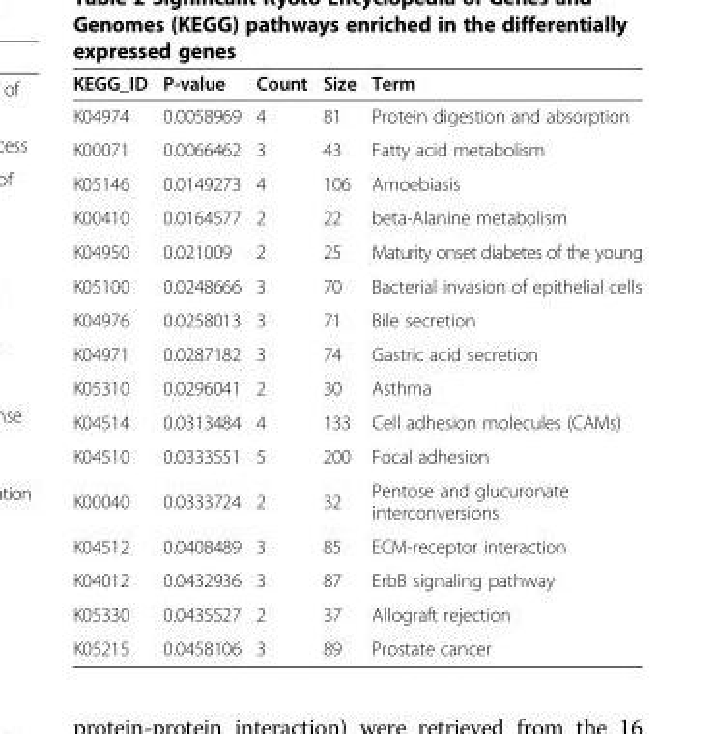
<table><thead><tr><td>KEGG_ID</td><td>P-value</td><td>Count</td><td>Size</td><td>Term</td></tr></thead><tbody><tr><td>K04974</td><td>0.0058969</td><td>4</td><td>81</td><td>Protein digestion and absorption</td></tr><tr><td>K00071</td><td>0.0066462</td><td>3</td><td>43</td><td>Fatty acid metabolism</td></tr><tr><td>K05146</td><td>0.0149273</td><td>4</td><td>106</td><td>Amoebiasis</td></tr><tr><td>K00410</td><td>0.0164577</td><td>2</td><td>22</td><td>beta-Alanine metabolism</td></tr><tr><td>K04950</td><td>0.021009</td><td>2</td><td>25</td><td>Maturity onset diabetes of the young</td></tr><tr><td>K05100</td><td>0.0248666</td><td>3</td><td>70</td><td>Bacterial invasion of epithelial cells</td></tr><tr><td>K04976</td><td>0.0258013</td><td>3</td><td>71</td><td>Bile secretion</td></tr><tr><td>K04971</td><td>0.0287182</td><td>3</td><td>74</td><td>Gastric acid secretion</td></tr><tr><td>K05310</td><td>0.0296041</td><td>2</td><td>30</td><td>Asthma</td></tr><tr><td>K04514</td><td>0.0313484</td><td>4</td><td>133</td><td>Cell adhesion molecules (CAMs)</td></tr><tr><td>K04510</td><td>0.0333551</td><td>5</td><td>200</td><td>Focal adhesion</td></tr><tr><td>K00040</td><td>0.0333724</td><td>2</td><td>32</td><td>Pentose and glucuronate interconversions</td></tr><tr><td>K04512</td><td>0.0408489</td><td>3</td><td>85</td><td>ECM-receptor interaction</td></tr><tr><td>K04012</td><td>0.0432936</td><td>3</td><td>87</td><td>ErbB signaling pathway</td></tr><tr><td>K05330</td><td>0.0435527</td><td>2</td><td>37</td><td>Allograft rejection</td></tr><tr><td>K05215</td><td>0.0458106</td><td>3</td><td>89</td><td>Prostate cancer</td></tr></tbody></table>